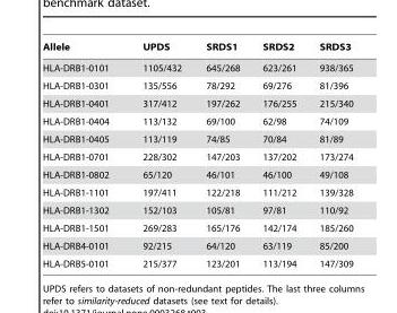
<table><thead><tr><td>Allele</td><td>UPDS</td><td>SRDS1</td><td>SRDS2</td><td>SRDS3</td></tr></thead><tbody><tr><td>HLA-DRB1-0101</td><td>1105/432</td><td>645/268</td><td>623/261</td><td>938/365</td></tr><tr><td>HLA-DRB1-0301</td><td>135/556</td><td>78/292</td><td>69/276</td><td>81/396</td></tr><tr><td>HLA-DRB1-0401</td><td>317/412</td><td>197/262</td><td>176/255</td><td>215/340</td></tr><tr><td>HLA-DRB1-0404</td><td>113/132</td><td>69/100</td><td>62/98</td><td>74/109</td></tr><tr><td>HLA-DRB1-0405</td><td>113/119</td><td>74/85</td><td>70/84</td><td>81/89</td></tr><tr><td>HLA-DRB1-0701</td><td>228/302</td><td>147/203</td><td>137/202</td><td>173/274</td></tr><tr><td>HLA-DRB1-0802</td><td>65/120</td><td>46/101</td><td>46/100</td><td>49/108</td></tr><tr><td>HLA-DRB1-1101</td><td>197/411</td><td>122/218</td><td>111/212</td><td>139/328</td></tr><tr><td>HLA-DRB1-1302</td><td>152/103</td><td>105/81</td><td>97/81</td><td>110/92</td></tr><tr><td>HLA-DRB1-1501</td><td>269/283</td><td>165/176</td><td>142/174</td><td>185/260</td></tr><tr><td>HLA-DRB4-0101</td><td>92/215</td><td>64/120</td><td>63/119</td><td>85/200</td></tr><tr><td>HLA-DRB5-0101</td><td>215/377</td><td>123/201</td><td>113/194</td><td>147/309</td></tr></tbody></table>